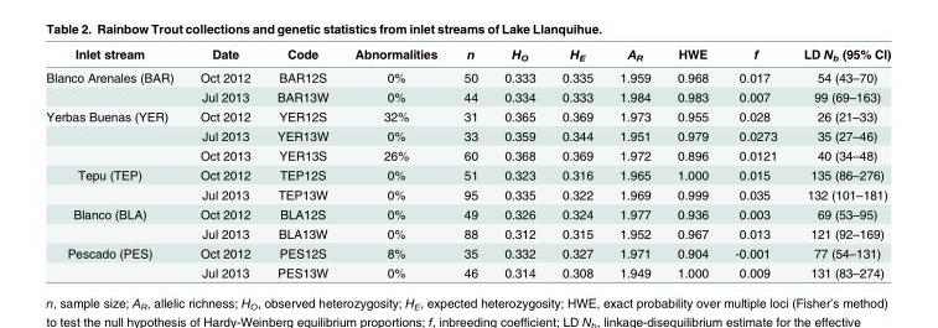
<table><thead><tr><td>Inlet stream</td><td>Date</td><td>Code</td><td>Abnormalities</td><td>n</td><td>H<sub>O</sub></td><td>H<sub>E</sub></td><td>A<sub>R</sub></td><td>HWE</td><td>f</td><td>LD N<sub>b</sub> (95% CI)</td></tr></thead><tbody><tr><td rowspan="2">Blanco Arenales (BAR)</td><td>Oct 2012</td><td>BAR12S</td><td>0%</td><td>50</td><td>0.333</td><td>0.335</td><td>1.959</td><td>0.968</td><td>0.017</td><td>54 (43–70)</td></tr><tr><td>Jul 2013</td><td>BAR13W</td><td>0%</td><td>44</td><td>0.334</td><td>0.333</td><td>1.984</td><td>0.983</td><td>0.007</td><td>99 (69–163)</td></tr><tr><td rowspan="3">Yerbas Buenas (YER)</td><td>Oct 2012</td><td>YER12S</td><td>32%</td><td>31</td><td>0.365</td><td>0.369</td><td>1.973</td><td>0.955</td><td>0.028</td><td>26 (21–33)</td></tr><tr><td>Jul 2013</td><td>YER13W</td><td>0%</td><td>33</td><td>0.359</td><td>0.344</td><td>1.951</td><td>0.979</td><td>0.0273</td><td>35 (27–46)</td></tr><tr><td>Oct 2013</td><td>YER13S</td><td>26%</td><td>60</td><td>0.368</td><td>0.369</td><td>1.972</td><td>0.896</td><td>0.0121</td><td>40 (34–48)</td></tr><tr><td rowspan="2">Tepu (TEP)</td><td>Oct 2012</td><td>TEP12S</td><td>0%</td><td>51</td><td>0.323</td><td>0.316</td><td>1.965</td><td>1.000</td><td>0.015</td><td>135 (86–276)</td></tr><tr><td>Jul 2013</td><td>TEP13W</td><td>0%</td><td>95</td><td>0.335</td><td>0.322</td><td>1.969</td><td>0.999</td><td>0.035</td><td>132 (101–181)</td></tr><tr><td rowspan="2">Blanco (BLA)</td><td>Oct 2012</td><td>BLA12S</td><td>0%</td><td>49</td><td>0.326</td><td>0.324</td><td>1.977</td><td>0.936</td><td>0.003</td><td>69 (53–95)</td></tr><tr><td>Jul 2013</td><td>BLA13W</td><td>0%</td><td>88</td><td>0.312</td><td>0.315</td><td>1.952</td><td>0.967</td><td>0.013</td><td>121 (92–169)</td></tr><tr><td rowspan="2">Pescado (PES)</td><td>Oct 2012</td><td>PES12S</td><td>8%</td><td>35</td><td>0.332</td><td>0.327</td><td>1.971</td><td>0.904</td><td>-0.001</td><td>77 (54–131)</td></tr><tr><td>Jul 2013</td><td>PES13W</td><td>0%</td><td>46</td><td>0.314</td><td>0.308</td><td>1.949</td><td>1.000</td><td>0.009</td><td>131 (83–274)</td></tr></tbody></table>